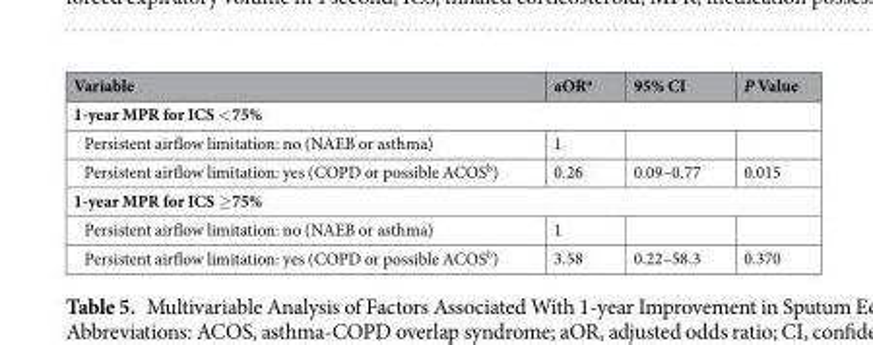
<table><thead><tr><td>Variable</td><td>aOR<sup>a</sup></td><td>95% CI</td><td>P Value</td></tr></thead><tbody><tr><td colspan="4">1-year MPR for ICS &lt;75%</td></tr><tr><td>Persistent airflow limitation: no (NAEB or asthma)</td><td>1</td><td></td><td></td></tr><tr><td>Persistent airflow limitation: yes (COPD or possible ACOS<sup>b</sup>)</td><td>0.26</td><td>0.09–0.77</td><td>0.015</td></tr><tr><td colspan="4">1-year MPR for ICS ≥75%</td></tr><tr><td>Persistent airflow limitation: no (NAEB or asthma)</td><td>1</td><td></td><td></td></tr><tr><td>Persistent airflow limitation: yes (COPD or possible ACOS<sup>b</sup>)</td><td>3.58</td><td>0.22–58.3</td><td>0.370</td></tr></tbody></table>